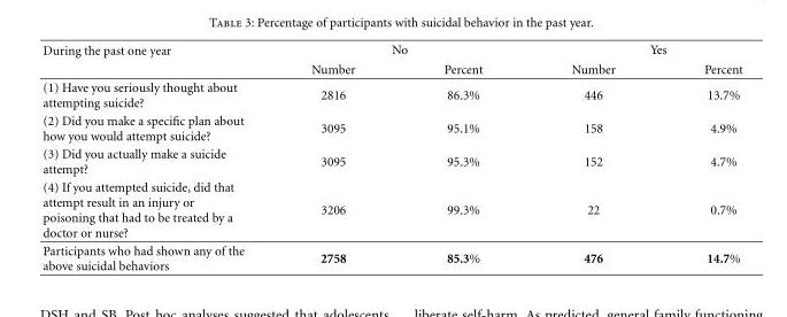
<table><thead><tr><td rowspan="2">During the past one year</td><td colspan="2">No</td><td colspan="2">Yes</td></tr><tr><td>Number</td><td>Percent</td><td>Number</td><td>Percent</td></tr></thead><tbody><tr><td>(1) Have you seriously thought about attempting suicide?</td><td>2816</td><td>86.3%</td><td>446</td><td>13.7%</td></tr><tr><td>(2) Did you make a specific plan about how you would attempt suicide?</td><td>3095</td><td>95.1%</td><td>158</td><td>4.9%</td></tr><tr><td>(3) Did you actually make a suicide attempt?</td><td>3095</td><td>95.3%</td><td>152</td><td>4.7%</td></tr><tr><td>(4) If you attempted suicide, did that attempt result in an injury or poisoning that had to be treated by a doctor or nurse?</td><td>3206</td><td>99.3%</td><td>22</td><td>0.7%</td></tr><tr><td>Participants who had shown any of the above suicidal behaviors</td><td>2758</td><td>85.3%</td><td>476</td><td>14.7%</td></tr></tbody></table>